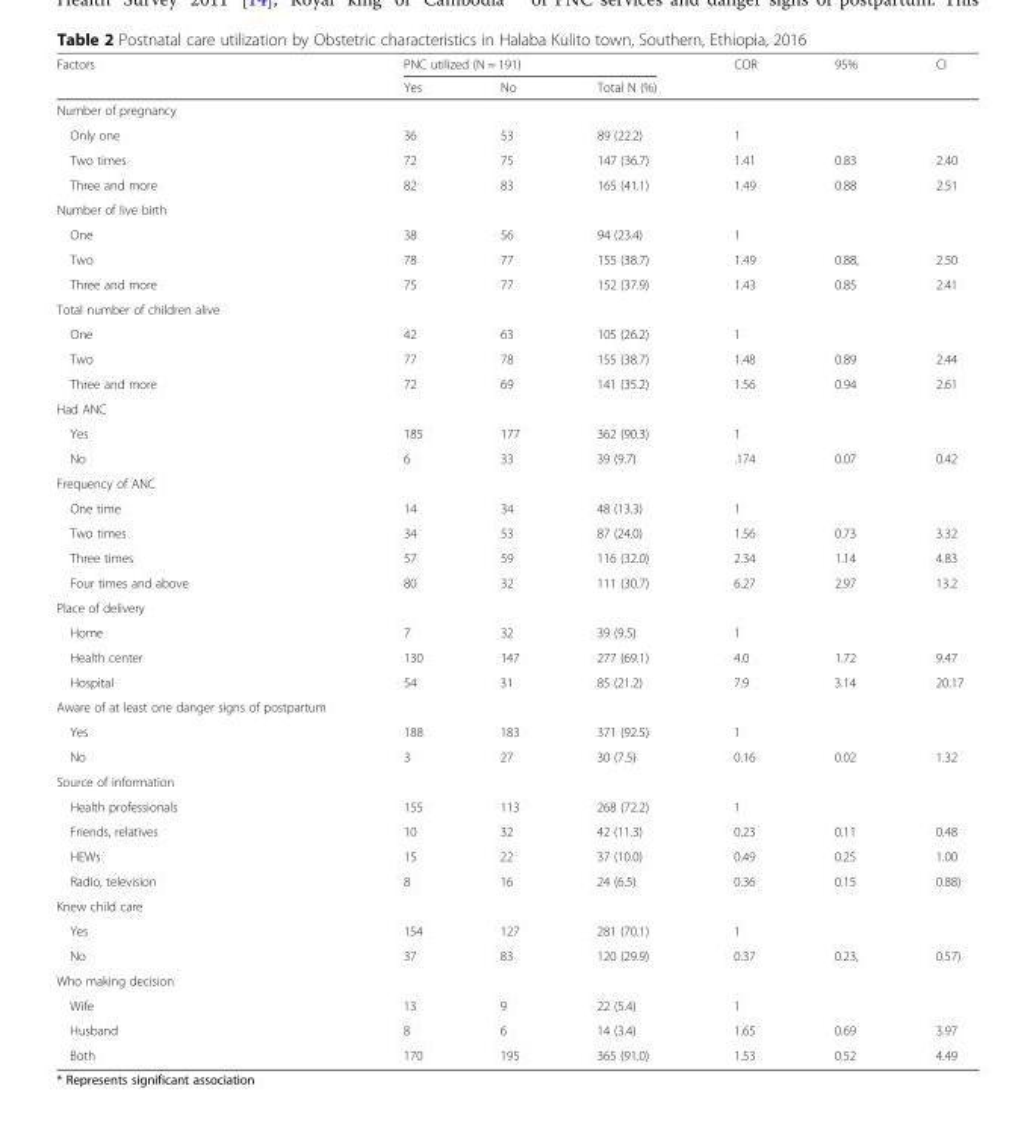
<table><thead><tr><td rowspan="2">Factors</td><td colspan="3">PNC utilized (N = 191)</td><td rowspan="2">COR</td><td rowspan="2">95%</td><td rowspan="2">CI</td></tr><tr><td>Yes</td><td>No</td><td>Total N (%)</td></tr></thead><tbody><tr><td colspan="7">Number of pregnancy</td></tr><tr><td>Only one</td><td>36</td><td>53</td><td>89 (22.2)</td><td>1</td><td></td><td></td></tr><tr><td>Two times</td><td>72</td><td>75</td><td>147 (36.7)</td><td>1.41</td><td>0.83</td><td>2.40</td></tr><tr><td>Three and more</td><td>82</td><td>83</td><td>165 (41.1)</td><td>1.49</td><td>0.88</td><td>2.51</td></tr><tr><td colspan="7">Number of live birth</td></tr><tr><td>One</td><td>38</td><td>56</td><td>94 (23.4)</td><td>1</td><td></td><td></td></tr><tr><td>Two</td><td>78</td><td>77</td><td>155 (38.7)</td><td>1.49</td><td>0.88,</td><td>2.50</td></tr><tr><td>Three and more</td><td>75</td><td>77</td><td>152 (37.9)</td><td>1.43</td><td>0.85</td><td>2.41</td></tr><tr><td colspan="7">Total number of children alive</td></tr><tr><td>One</td><td>42</td><td>63</td><td>105 (26.2)</td><td>1</td><td></td><td></td></tr><tr><td>Two</td><td>77</td><td>78</td><td>155 (38.7)</td><td>1.48</td><td>0.89</td><td>2.44</td></tr><tr><td>Three and more</td><td>72</td><td>69</td><td>141 (35.2)</td><td>1.56</td><td>0.94</td><td>2.61</td></tr><tr><td colspan="7">Had ANC</td></tr><tr><td>Yes</td><td>185</td><td>177</td><td>362 (90.3)</td><td>1</td><td></td><td></td></tr><tr><td>No</td><td>6</td><td>33</td><td>39 (9.7)</td><td>.174</td><td>0.07</td><td>0.42</td></tr><tr><td colspan="7">Frequency of ANC</td></tr><tr><td>One time</td><td>14</td><td>34</td><td>48 (13.3)</td><td>1</td><td></td><td></td></tr><tr><td>Two times</td><td>34</td><td>53</td><td>87 (24.0)</td><td>1.56</td><td>0.73</td><td>3.32</td></tr><tr><td>Three times</td><td>57</td><td>59</td><td>116 (32.0)</td><td>2.34</td><td>1.14</td><td>4.83</td></tr><tr><td>Four times and above</td><td>80</td><td>32</td><td>111 (30.7)</td><td>6.27</td><td>2.97</td><td>13.2</td></tr><tr><td colspan="7">Place of delivery</td></tr><tr><td>Home</td><td>7</td><td>32</td><td>39 (9.5)</td><td>1</td><td></td><td></td></tr><tr><td>Health center</td><td>130</td><td>147</td><td>277 (69.1)</td><td>4.0</td><td>1.72</td><td>9.47</td></tr><tr><td>Hospital</td><td>54</td><td>31</td><td>85 (21.2)</td><td>7.9</td><td>3.14</td><td>20.17</td></tr><tr><td colspan="7">Aware of at least one danger signs of postpartum</td></tr><tr><td>Yes</td><td>188</td><td>183</td><td>371 (92.5)</td><td>1</td><td></td><td></td></tr><tr><td>No</td><td>3</td><td>27</td><td>30 (7.5)</td><td>0.16</td><td>0.02</td><td>1.32</td></tr><tr><td colspan="7">Source of information</td></tr><tr><td>Health professionals</td><td>155</td><td>113</td><td>268 (72.2)</td><td>1</td><td></td><td></td></tr><tr><td>Friends, relatives</td><td>10</td><td>32</td><td>42 (11.3)</td><td>0.23</td><td>0.11</td><td>0.48</td></tr><tr><td>HEWs</td><td>15</td><td>22</td><td>37 (10.0)</td><td>0.49</td><td>0.25</td><td>1.00</td></tr><tr><td>Radio, television</td><td>8</td><td>16</td><td>24 (6.5)</td><td>0.36</td><td>0.15</td><td>0.88)</td></tr><tr><td colspan="7">Knew child care</td></tr><tr><td>Yes</td><td>154</td><td>127</td><td>281 (70.1)</td><td>1</td><td></td><td></td></tr><tr><td>No</td><td>37</td><td>83</td><td>120 (29.9)</td><td>0.37</td><td>0.23,</td><td>0.57)</td></tr><tr><td colspan="7">Who making decision</td></tr><tr><td>Wife</td><td>13</td><td>9</td><td>22 (5.4)</td><td>1</td><td></td><td></td></tr><tr><td>Husband</td><td>8</td><td>6</td><td>14 (3.4)</td><td>1.65</td><td>0.69</td><td>3.97</td></tr><tr><td>Both</td><td>170</td><td>195</td><td>365 (91.0)</td><td>1.53</td><td>0.52</td><td>4.49</td></tr></tbody></table>